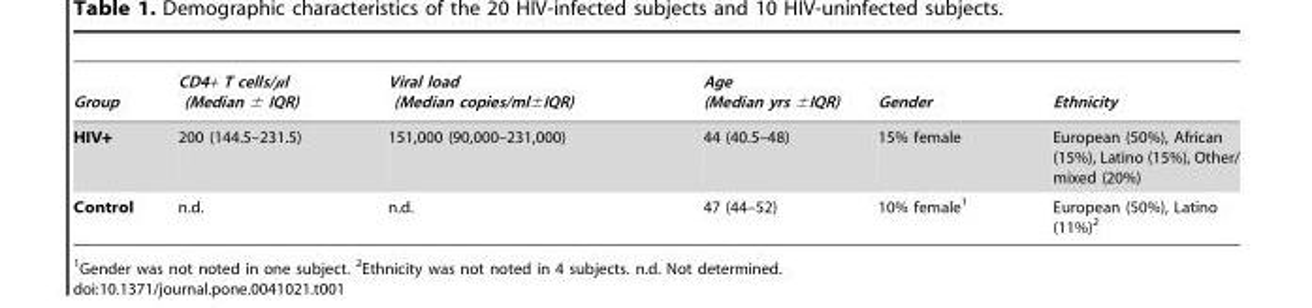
<table><thead><tr><td>Group</td><td>CD4+ T cells/μl (Median ± IQR)</td><td>Viral load (Median copies/ml±IQR)</td><td>Age (Median yrs ±IQR)</td><td>Gender</td><td>Ethnicity</td></tr></thead><tbody><tr><td>HIV+</td><td>200 (144.5–231.5)</td><td>151,000 (90,000–231,000)</td><td>44 (40.5–48)</td><td>15% female</td><td>European (50%), African (15%), Latino (15%), Other/ mixed (20%)</td></tr><tr><td>Control</td><td>n.d.</td><td>n.d.</td><td>47 (44–52)</td><td>10% female<sup>1</sup></td><td>European (50%), Latino (11%)<sup>2</sup></td></tr></tbody></table>